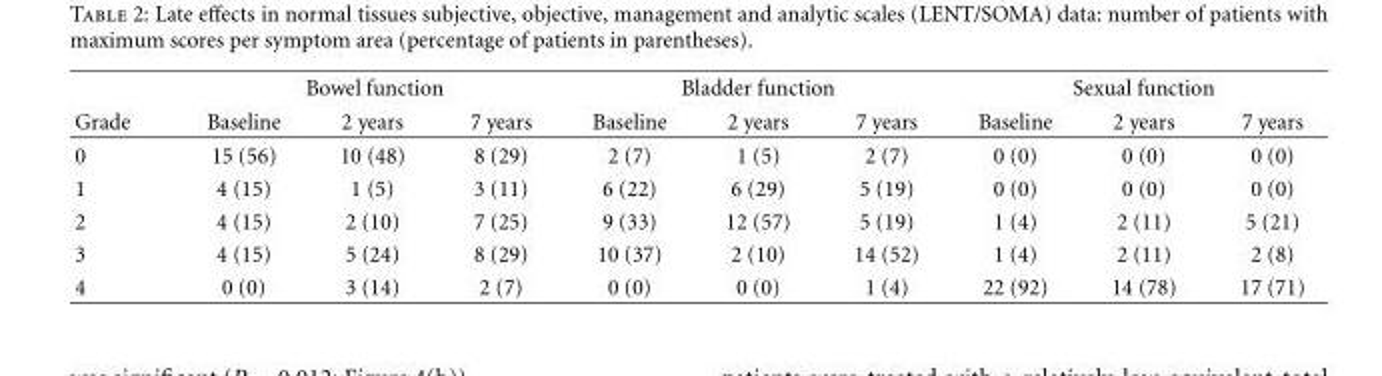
<table><thead><tr><td rowspan="2">Grade</td><td colspan="3">Bowel function</td><td colspan="3">Bladder function</td><td colspan="3">Sexual function</td></tr><tr><td>Baseline</td><td>2 years</td><td>7 years</td><td>Baseline</td><td>2 years</td><td>7 years</td><td>Baseline</td><td>2 years</td><td>7 years</td></tr></thead><tbody><tr><td>0</td><td>15 (56)</td><td>10 (48)</td><td>8 (29)</td><td>2 (7)</td><td>1 (5)</td><td>2 (7)</td><td>0 (0)</td><td>0 (0)</td><td>0 (0)</td></tr><tr><td>1</td><td>4 (15)</td><td>1 (5)</td><td>3 (11)</td><td>6 (22)</td><td>6 (29)</td><td>5 (19)</td><td>0 (0)</td><td>0 (0)</td><td>0 (0)</td></tr><tr><td>2</td><td>4 (15)</td><td>2 (10)</td><td>7 (25)</td><td>9 (33)</td><td>12 (57)</td><td>5 (19)</td><td>1 (4)</td><td>2 (11)</td><td>5 (21)</td></tr><tr><td>3</td><td>4 (15)</td><td>5 (24)</td><td>8 (29)</td><td>10 (37)</td><td>2 (10)</td><td>14 (52)</td><td>1 (4)</td><td>2 (11)</td><td>2 (8)</td></tr><tr><td>4</td><td>0 (0)</td><td>3 (14)</td><td>2 (7)</td><td>0 (0)</td><td>0 (0)</td><td>1 (4)</td><td>22 (92)</td><td>14 (78)</td><td>17 (71)</td></tr></tbody></table>